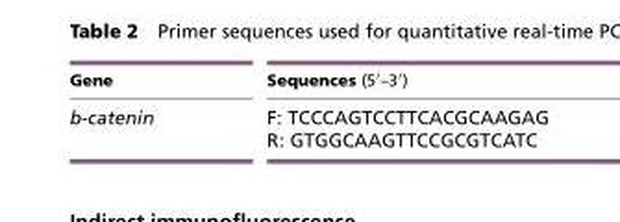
<table><thead><tr><td>Gene</td><td>Sequences (5′–3′)</td></tr></thead><tbody><tr><td rowspan="2">b-catenin</td><td>F: TCCCAGTCCTTCACGCAAGAG</td></tr><tr><td>R: GTGGCAAGTTCCGCGTCATC</td></tr></tbody></table>